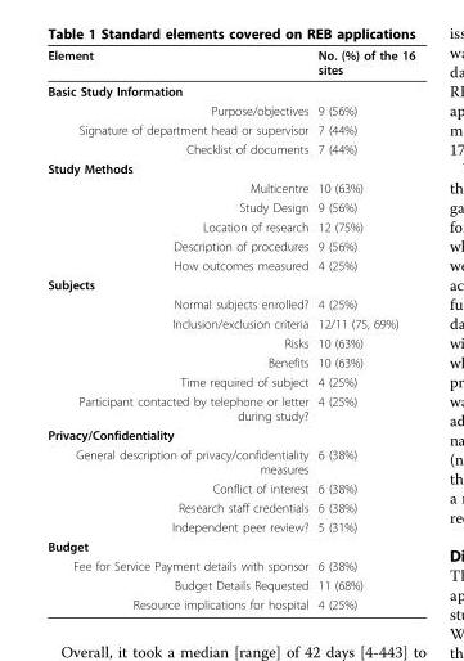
<table><thead><tr><td>Element</td><td>No. (%) of the 16 sites</td></tr></thead><tbody><tr><td colspan="2">Basic Study Information</td></tr><tr><td>Purpose/objectives</td><td>9 (56%)</td></tr><tr><td>Signature of department head or supervisor</td><td>7 (44%)</td></tr><tr><td>Checklist of documents</td><td>7 (44%)</td></tr><tr><td colspan="2">Study Methods</td></tr><tr><td>Multicentre</td><td>10 (63%)</td></tr><tr><td>Study Design</td><td>9 (56%)</td></tr><tr><td>Location of research</td><td>12 (75%)</td></tr><tr><td>Description of procedures</td><td>9 (56%)</td></tr><tr><td>How outcomes measured</td><td>4 (25%)</td></tr><tr><td colspan="2">Subjects</td></tr><tr><td>Normal subjects enrolled?</td><td>4 (25%)</td></tr><tr><td>Inclusion/exclusion criteria</td><td>12/11 (75, 69%)</td></tr><tr><td>Risks</td><td>10 (63%)</td></tr><tr><td>Benefits</td><td>10 (63%)</td></tr><tr><td>Time required of subject</td><td>4 (25%)</td></tr><tr><td>Participant contacted by telephone or letter during study?</td><td>4 (25%)</td></tr><tr><td colspan="2">Privacy/Confidentiality</td></tr><tr><td>General description of privacy/confidentiality measures</td><td>6 (38%)</td></tr><tr><td>Conflict of interest</td><td>6 (38%)</td></tr><tr><td>Research staff credentials</td><td>6 (38%)</td></tr><tr><td>Independent peer review?</td><td>5 (31%)</td></tr><tr><td colspan="2">Budget</td></tr><tr><td>Fee for Service Payment details with sponsor</td><td>6 (38%)</td></tr><tr><td>Budget Details Requested</td><td>11 (68%)</td></tr><tr><td>Resource implications for hospital</td><td>4 (25%)</td></tr></tbody></table>